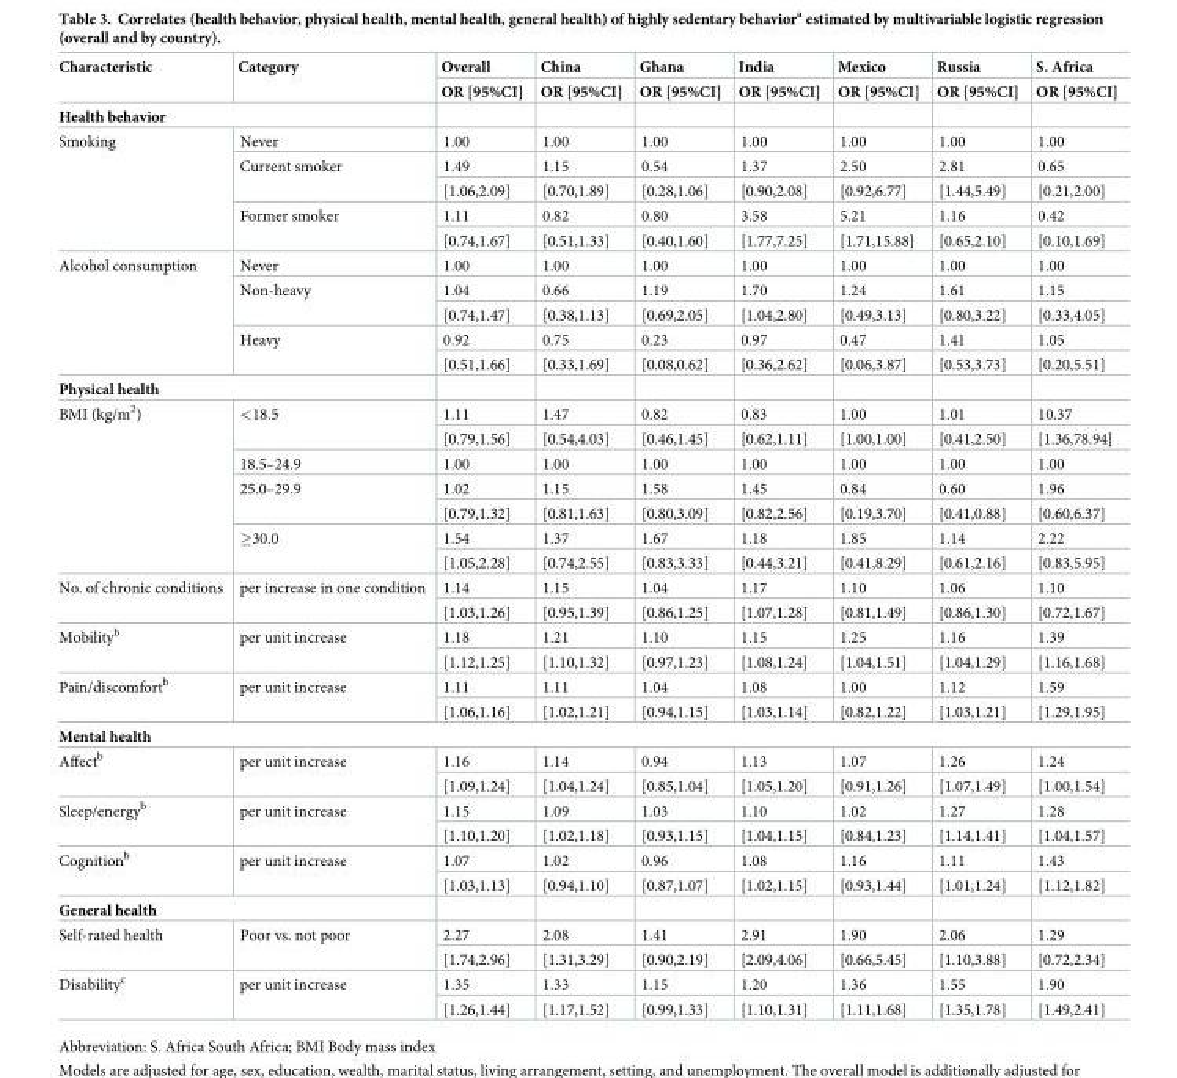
<table><thead><tr><td rowspan="2">Characteristic</td><td rowspan="2">Category</td><td rowspan="2">Overall OR [95%CI]</td><td rowspan="2">China OR [95%CI]</td><td rowspan="2">Ghana OR [95%CI]</td><td rowspan="2">India OR [95%CI]</td><td rowspan="2">Mexico OR [95%CI]</td><td rowspan="2">Russia OR [95%CI]</td><td rowspan="2">S. Africa OR [95%CI]</td></tr><tr></tr></thead><tbody><tr><td colspan="9">Health behavior</td></tr><tr><td rowspan="5">Smoking</td><td>Never</td><td>1.00</td><td>1.00</td><td>1.00</td><td>1.00</td><td>1.00</td><td>1.00</td><td>1.00</td></tr><tr><td rowspan="2">Current smoker</td><td>1.49</td><td>1.15</td><td>0.54</td><td>1.37</td><td>2.50</td><td>2.81</td><td>0.65</td></tr><tr><td>[1.06,2.09]</td><td>[0.70,1.89]</td><td>[0.28,1.06]</td><td>[0.90,2.08]</td><td>[0.92,6.77]</td><td>[1.44,5.49]</td><td>[0.21,2.00]</td></tr><tr><td rowspan="2">Former smoker</td><td>1.11</td><td>0.82</td><td>0.80</td><td>3.58</td><td>5.21</td><td>1.16</td><td>0.42</td></tr><tr><td>[0.74,1.67]</td><td>[0.51,1.33]</td><td>[0.40,1.60]</td><td>[1.77,7.25]</td><td>[1.71,15.88]</td><td>[0.65,2.10]</td><td>[0.10,1.69]</td></tr><tr><td rowspan="5">Alcohol consumption</td><td>Never</td><td>1.00</td><td>1.00</td><td>1.00</td><td>1.00</td><td>1.00</td><td>1.00</td><td>1.00</td></tr><tr><td rowspan="2">Non-heavy</td><td>1.04</td><td>0.66</td><td>1.19</td><td>1.70</td><td>1.24</td><td>1.61</td><td>1.15</td></tr><tr><td>[0.74,1.47]</td><td>[0.38,1.13]</td><td>[0.69,2.05]</td><td>[1.04,2.80]</td><td>[0.49,3.13]</td><td>[0.80,3.22]</td><td>[0.33,4.05]</td></tr><tr><td rowspan="2">Heavy</td><td>0.92</td><td>0.75</td><td>0.23</td><td>0.97</td><td>0.47</td><td>1.41</td><td>1.05</td></tr><tr><td>[0.51,1.66]</td><td>[0.33,1.69]</td><td>[0.08,0.62]</td><td>[0.36,2.62]</td><td>[0.06,3.87]</td><td>[0.53,3.73]</td><td>[0.20,5.51]</td></tr><tr><td colspan="9">Physical health</td></tr><tr><td rowspan="7">BMI (kg/m<sup>2</sup>)</td><td rowspan="2">&lt;18.5</td><td>1.11</td><td>1.47</td><td>0.82</td><td>0.83</td><td>1.00</td><td>1.01</td><td>10.37</td></tr><tr><td>[0.79,1.56]</td><td>[0.54,4.03]</td><td>[0.46,1.45]</td><td>[0.62,1.11]</td><td>[1.00,1.00]</td><td>[0.41,2.50]</td><td>[1.36,78.94]</td></tr><tr><td>18.5–24.9</td><td>1.00</td><td>1.00</td><td>1.00</td><td>1.00</td><td>1.00</td><td>1.00</td><td>1.00</td></tr><tr><td rowspan="2">25.0–29.9</td><td>1.02</td><td>1.15</td><td>1.58</td><td>1.45</td><td>0.84</td><td>0.60</td><td>1.96</td></tr><tr><td>[0.79,1.32]</td><td>[0.81,1.63]</td><td>[0.80,3.09]</td><td>[0.82,2.56]</td><td>[0.19,3.70]</td><td>[0.41,0.88]</td><td>[0.60,6.37]</td></tr><tr><td rowspan="2">≥30.0</td><td>1.54</td><td>1.37</td><td>1.67</td><td>1.18</td><td>1.85</td><td>1.14</td><td>2.22</td></tr><tr><td>[1.05,2.28]</td><td>[0.74,2.55]</td><td>[0.83,3.33]</td><td>[0.44,3.21]</td><td>[0.41,8.29]</td><td>[0.61,2.16]</td><td>[0.83,5.95]</td></tr><tr><td rowspan="2">No. of chronic conditions</td><td rowspan="2">per increase in one condition</td><td>1.14</td><td>1.15</td><td>1.04</td><td>1.17</td><td>1.10</td><td>1.06</td><td>1.10</td></tr><tr><td>[1.03,1.26]</td><td>[0.95,1.39]</td><td>[0.86,1.25]</td><td>[1.07,1.28]</td><td>[0.81,1.49]</td><td>[0.86,1.30]</td><td>[0.72,1.67]</td></tr><tr><td rowspan="2">Mobility<sup>b</sup></td><td rowspan="2">per unit increase</td><td>1.18</td><td>1.21</td><td>1.10</td><td>1.15</td><td>1.25</td><td>1.16</td><td>1.39</td></tr><tr><td>[1.12,1.25]</td><td>[1.10,1.32]</td><td>[0.97,1.23]</td><td>[1.08,1.24]</td><td>[1.04,1.51]</td><td>[1.04,1.29]</td><td>[1.16,1.68]</td></tr><tr><td rowspan="2">Pain/discomfort<sup>b</sup></td><td rowspan="2">per unit increase</td><td>1.11</td><td>1.11</td><td>1.04</td><td>1.08</td><td>1.00</td><td>1.12</td><td>1.59</td></tr><tr><td>[1.06,1.16]</td><td>[1.02,1.21]</td><td>[0.94,1.15]</td><td>[1.03,1.14]</td><td>[0.82,1.22]</td><td>[1.03,1.21]</td><td>[1.29,1.95]</td></tr><tr><td colspan="9">Mental health</td></tr><tr><td rowspan="2">Affect<sup>b</sup></td><td rowspan="2">per unit increase</td><td>1.16</td><td>1.14</td><td>0.94</td><td>1.13</td><td>1.07</td><td>1.26</td><td>1.24</td></tr><tr><td>[1.09,1.24]</td><td>[1.04,1.24]</td><td>[0.85,1.04]</td><td>[1.05,1.20]</td><td>[0.91,1.26]</td><td>[1.07,1.49]</td><td>[1.00,1.54]</td></tr><tr><td rowspan="2">Sleep/energy<sup>b</sup></td><td rowspan="2">per unit increase</td><td>1.15</td><td>1.09</td><td>1.03</td><td>1.10</td><td>1.02</td><td>1.27</td><td>1.28</td></tr><tr><td>[1.10,1.20]</td><td>[1.02,1.18]</td><td>[0.93,1.15]</td><td>[1.04,1.15]</td><td>[0.84,1.23]</td><td>[1.14,1.41]</td><td>[1.04,1.57]</td></tr><tr><td rowspan="2">Cognition<sup>b</sup></td><td rowspan="2">per unit increase</td><td>1.07</td><td>1.02</td><td>0.96</td><td>1.08</td><td>1.16</td><td>1.11</td><td>1.43</td></tr><tr><td>[1.03,1.13]</td><td>[0.94,1.10]</td><td>[0.87,1.07]</td><td>[1.02,1.15]</td><td>[0.93,1.44]</td><td>[1.01,1.24]</td><td>[1.12,1.82]</td></tr><tr><td colspan="9">General health</td></tr><tr><td rowspan="2">Self-rated health</td><td rowspan="2">Poor vs. not poor</td><td>2.27</td><td>2.08</td><td>1.41</td><td>2.91</td><td>1.90</td><td>2.06</td><td>1.29</td></tr><tr><td>[1.74,2.96]</td><td>[1.31,3.29]</td><td>[0.90,2.19]</td><td>[2.09,4.06]</td><td>[0.66,5.45]</td><td>[1.10,3.88]</td><td>[0.72,2.34]</td></tr><tr><td rowspan="2">Disability<sup>c</sup></td><td rowspan="2">per unit increase</td><td>1.35</td><td>1.33</td><td>1.15</td><td>1.20</td><td>1.36</td><td>1.55</td><td>1.90</td></tr><tr><td>[1.26,1.44]</td><td>[1.17,1.52]</td><td>[0.99,1.33]</td><td>[1.10,1.31]</td><td>[1.11,1.68]</td><td>[1.35,1.78]</td><td>[1.49,2.41]</td></tr></tbody></table>